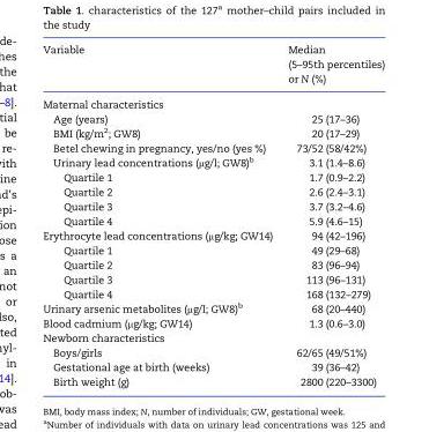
<table><thead><tr><td>Variable</td><td>Median (5–95th percentiles) or N (%)</td></tr></thead><tbody><tr><td colspan="2">Maternal characteristics</td></tr><tr><td>Age (years)</td><td>25 (17–36)</td></tr><tr><td>BMI (kg/m<sup>2</sup>; GW8)</td><td>20 (17–29)</td></tr><tr><td>Betel chewing in pregnancy, yes/no (yes %)</td><td>73/52 (58/42%)</td></tr><tr><td>Urinary lead concentrations (µg/l; GW8)<sup>b</sup></td><td>3.1 (1.4–8.6)</td></tr><tr><td>Quartile 1</td><td>1.7 (0.9–2.2)</td></tr><tr><td>Quartile 2</td><td>2.6 (2.4–3.1)</td></tr><tr><td>Quartile 3</td><td>3.7 (3.2–4.6)</td></tr><tr><td>Quartile 4</td><td>5.9 (4.6–15)</td></tr><tr><td>Erythrocyte lead concentrations (µg/kg; GW14)</td><td>94 (42–196)</td></tr><tr><td>Quartile 1</td><td>49 (29–68)</td></tr><tr><td>Quartile 2</td><td>83 (96–94)</td></tr><tr><td>Quartile 3</td><td>113 (96–131)</td></tr><tr><td>Quartile 4</td><td>168 (132–279)</td></tr><tr><td>Urinary arsenic metabolites (µg/l; GW8)<sup>b</sup></td><td>68 (20–440)</td></tr><tr><td>Blood cadmium (µg/kg; GW14)</td><td>1.3 (0.6–3.0)</td></tr><tr><td colspan="2">Newborn characteristics</td></tr><tr><td>Boys/girls</td><td>62/65 (49/51%)</td></tr><tr><td>Gestational age at birth (weeks)</td><td>39 (36–42)</td></tr><tr><td>Birth weight (g)</td><td>2800 (220–3300)</td></tr></tbody></table>